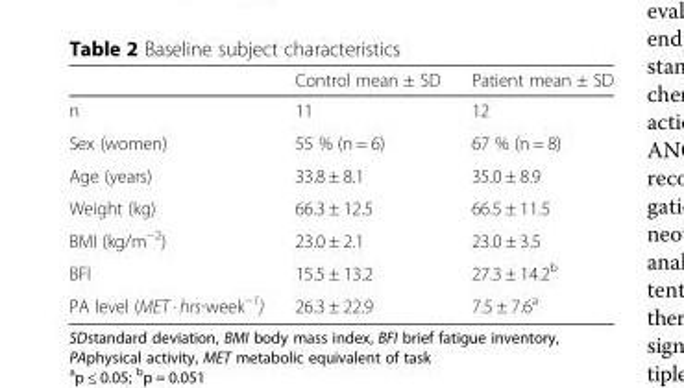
<table><thead><tr><td></td><td>Control mean ± SD</td><td>Patient mean ± SD</td></tr></thead><tbody><tr><td>n</td><td>11</td><td>12</td></tr><tr><td>Sex (women)</td><td>55 % (n = 6)</td><td>67 % (n = 8)</td></tr><tr><td>Age (years)</td><td>33.8 ± 8.1</td><td>35.0 ± 8.9</td></tr><tr><td>Weight (kg)</td><td>66.3 ± 12.5</td><td>66.5 ± 11.5</td></tr><tr><td>BMI (kg/m<sup>−2</sup>)</td><td>23.0 ± 2.1</td><td>23.0 ± 3.5</td></tr><tr><td>BFI</td><td>15.5 ± 13.2</td><td>27.3 ± 14.2<sup>b</sup></td></tr><tr><td>PA level (MET · hrs∙week<sup>−1</sup>)</td><td>26.3 ± 22.9</td><td>7.5 ± 7.6<sup>a</sup></td></tr></tbody></table>